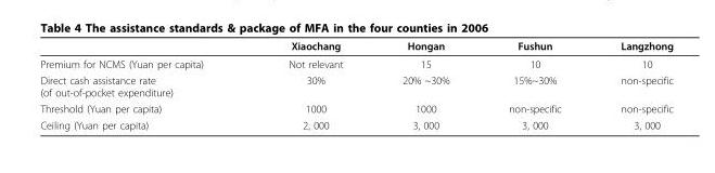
<table><thead><tr><td></td><td>Xiaochang</td><td>Hongan</td><td>Fushun</td><td>Langzhong</td></tr></thead><tbody><tr><td>Premium for NCMS (Yuan per capita)</td><td>Not relevant</td><td>15</td><td>10</td><td>10</td></tr><tr><td>Direct cash assistance rate (of out-of-pocket expenditure)</td><td>30%</td><td>20% ~30%</td><td>15%~30%</td><td>non-specific</td></tr><tr><td>Threshold (Yuan per capita)</td><td>1000</td><td>1000</td><td>non-specific</td><td>non-specific</td></tr><tr><td>Ceiling (Yuan per capita)</td><td>2, 000</td><td>3, 000</td><td>3, 000</td><td>3, 000</td></tr></tbody></table>